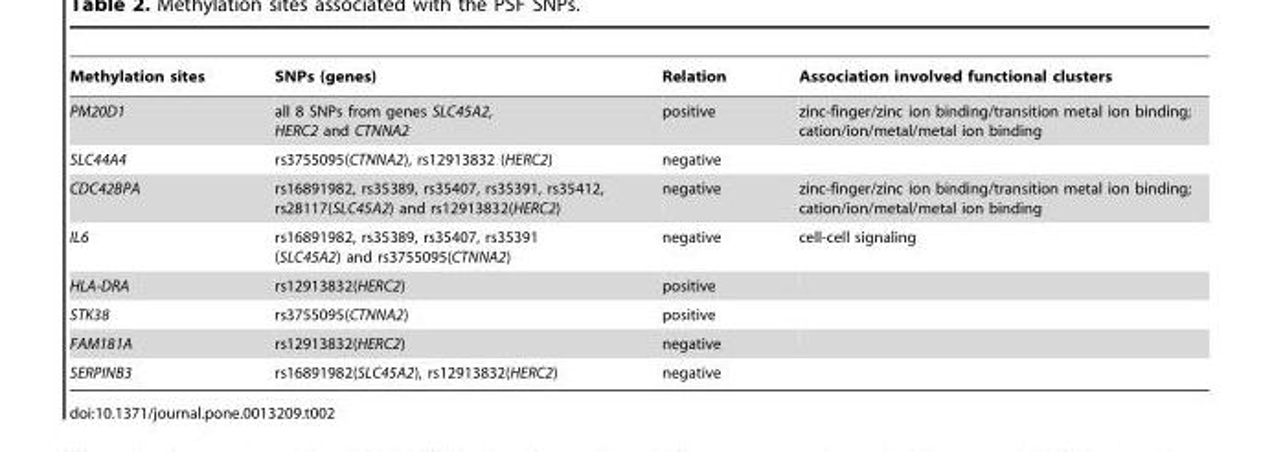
<table><thead><tr><td>Methylation sites</td><td>SNPs (genes)</td><td>Relation</td><td>Association involved functional clusters</td></tr></thead><tbody><tr><td>PM20D1</td><td>all 8 SNPs from genes SLC45A2, HERC2 and CTNNA2</td><td>positive</td><td>zinc-finger/zinc ion binding/transition metal ion binding; cation/ion/metal/metal ion binding</td></tr><tr><td>SLC44A4</td><td>rs3755095(CTNNA2), rs12913832 (HERC2)</td><td>negative</td><td></td></tr><tr><td>CDC42BPA</td><td>rs16891982, rs35389, rs35407, rs35391, rs35412, rs28117(SLC45A2) and rs12913832(HERC2)</td><td>negative</td><td>zinc-finger/zinc ion binding/transition metal ion binding; cation/ion/metal/metal ion binding</td></tr><tr><td>IL6</td><td>rs16891982, rs35389, rs35407, rs35391 (SLC45A2) and rs3755095(CTNNA2)</td><td>negative</td><td>cell-cell signaling</td></tr><tr><td>HLA-DRA</td><td>rs12913832(HERC2)</td><td>positive</td><td></td></tr><tr><td>STK38</td><td>rs3755095(CTNNA2)</td><td>positive</td><td></td></tr><tr><td>FAM181A</td><td>rs12913832(HERC2)</td><td>negative</td><td></td></tr><tr><td>SERPINB3</td><td>rs16891982(SLC45A2), rs12913832(HERC2)</td><td>negative</td><td></td></tr></tbody></table>